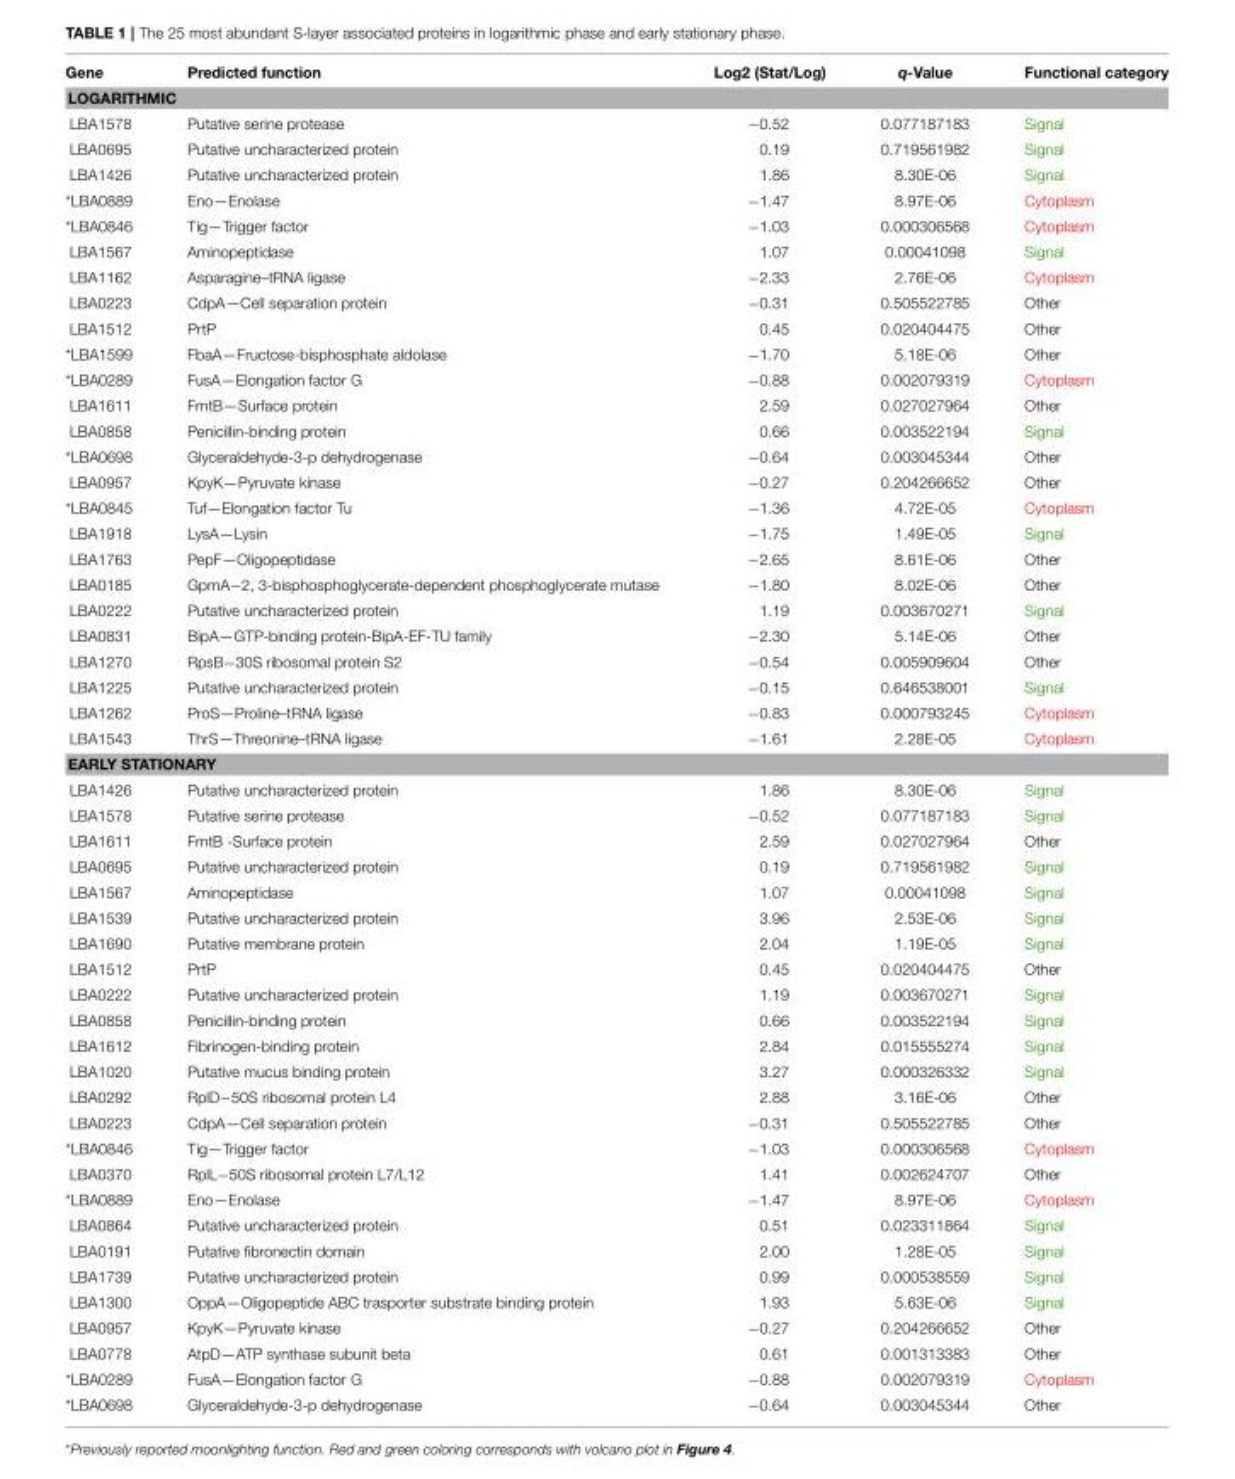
<table><thead><tr><td>Gene</td><td>Predicted function</td><td>Log2 (Stat/Log)</td><td>q-Value</td><td>Functional category</td></tr></thead><tbody><tr><td colspan="5">LOGARITHMIC</td></tr><tr><td>LBA1578</td><td>Putative serine protease</td><td>−0.52</td><td>0.077187183</td><td>Signal</td></tr><tr><td>LBA0695</td><td>Putative uncharacterized protein</td><td>0.19</td><td>0.719561982</td><td>Signal</td></tr><tr><td>LBA1426</td><td>Putative uncharacterized protein</td><td>1.86</td><td>8.30E-06</td><td>Signal</td></tr><tr><td>*LBA0889</td><td>Eno—Enolase</td><td>−1.47</td><td>8.97E-06</td><td>Cytoplasm</td></tr><tr><td>*LBA0846</td><td>Tig—Trigger factor</td><td>−1.03</td><td>0.000306568</td><td>Cytoplasm</td></tr><tr><td>LBA1567</td><td>Aminopeptidase</td><td>1.07</td><td>0.00041098</td><td>Signal</td></tr><tr><td>LBA1162</td><td>Asparagine–tRNA ligase</td><td>−2.33</td><td>2.76E-06</td><td>Cytoplasm</td></tr><tr><td>LBA0223</td><td>CdpA—Cell separation protein</td><td>−0.31</td><td>0.505522785</td><td>Other</td></tr><tr><td>LBA1512</td><td>PrtP</td><td>0.45</td><td>0.020404475</td><td>Other</td></tr><tr><td>*LBA1599</td><td>FbaA—Fructose-bisphosphate aldolase</td><td>−1.70</td><td>5.18E-06</td><td>Other</td></tr><tr><td>*LBA0289</td><td>FusA—Elongation factor G</td><td>−0.88</td><td>0.002079319</td><td>Cytoplasm</td></tr><tr><td>LBA1611</td><td>FmtB—Surface protein</td><td>2.59</td><td>0.027027964</td><td>Other</td></tr><tr><td>LBA0858</td><td>Penicillin-binding protein</td><td>0.66</td><td>0.003522194</td><td>Signal</td></tr><tr><td>*LBA0698</td><td>Glyceraldehyde-3-p dehydrogenase</td><td>−0.64</td><td>0.003045344</td><td>Other</td></tr><tr><td>LBA0957</td><td>KpyK—Pyruvate kinase</td><td>−0.27</td><td>0.204266652</td><td>Other</td></tr><tr><td>*LBA0845</td><td>Tuf—Elongation factor Tu</td><td>−1.36</td><td>4.72E-05</td><td>Cytoplasm</td></tr><tr><td>LBA1918</td><td>LysA—Lysin</td><td>−1.75</td><td>1.49E-05</td><td>Signal</td></tr><tr><td>LBA1763</td><td>PepF—Oligopeptidase</td><td>−2.65</td><td>8.61E-06</td><td>Other</td></tr><tr><td>LBA0185</td><td>GpmA−2, 3-bisphosphoglycerate-dependent phosphoglycerate mutase</td><td>−1.80</td><td>8.02E-06</td><td>Other</td></tr><tr><td>LBA0222</td><td>Putative uncharacterized protein</td><td>1.19</td><td>0.003670271</td><td>Signal</td></tr><tr><td>LBA0831</td><td>BipA—GTP-binding protein-BipA-EF-TU family</td><td>−2.30</td><td>5.14E-06</td><td>Other</td></tr><tr><td>LBA1270</td><td>RpsB−30S ribosomal protein S2</td><td>−0.54</td><td>0.005909604</td><td>Other</td></tr><tr><td>LBA1225</td><td>Putative uncharacterized protein</td><td>−0.15</td><td>0.646538001</td><td>Signal</td></tr><tr><td>LBA1262</td><td>ProS—Proline–tRNA ligase</td><td>−0.83</td><td>0.000793245</td><td>Cytoplasm</td></tr><tr><td>LBA1543</td><td>ThrS—Threonine–tRNA ligase</td><td>−1.61</td><td>2.28E-05</td><td>Cytoplasm</td></tr><tr><td colspan="5">EARLY STATIONARY</td></tr><tr><td>LBA1426</td><td>Putative uncharacterized protein</td><td>1.86</td><td>8.30E-06</td><td>Signal</td></tr><tr><td>LBA1578</td><td>Putative serine protease</td><td>−0.52</td><td>0.077187183</td><td>Signal</td></tr><tr><td>LBA1611</td><td>FmtB -Surface protein</td><td>2.59</td><td>0.027027964</td><td>Other</td></tr><tr><td>LBA0695</td><td>Putative uncharacterized protein</td><td>0.19</td><td>0.719561982</td><td>Signal</td></tr><tr><td>LBA1567</td><td>Aminopeptidase</td><td>1.07</td><td>0.00041098</td><td>Signal</td></tr><tr><td>LBA1539</td><td>Putative uncharacterized protein</td><td>3.96</td><td>2.53E-06</td><td>Signal</td></tr><tr><td>LBA1690</td><td>Putative membrane protein</td><td>2.04</td><td>1.19E-05</td><td>Signal</td></tr><tr><td>LBA1512</td><td>PrtP</td><td>0.45</td><td>0.020404475</td><td>Other</td></tr><tr><td>LBA0222</td><td>Putative uncharacterized protein</td><td>1.19</td><td>0.003670271</td><td>Signal</td></tr><tr><td>LBA0858</td><td>Penicillin-binding protein</td><td>0.66</td><td>0.003522194</td><td>Signal</td></tr><tr><td>LBA1612</td><td>Fibrinogen-binding protein</td><td>2.84</td><td>0.015555274</td><td>Signal</td></tr><tr><td>LBA1020</td><td>Putative mucus binding protein</td><td>3.27</td><td>0.000326332</td><td>Signal</td></tr><tr><td>LBA0292</td><td>RplD−50S ribosomal protein L4</td><td>2.88</td><td>3.16E-06</td><td>Other</td></tr><tr><td>LBA0223</td><td>CdpA—Cell separation protein</td><td>−0.31</td><td>0.505522785</td><td>Other</td></tr><tr><td>*LBA0846</td><td>Tig—Trigger factor</td><td>−1.03</td><td>0.000306568</td><td>Cytoplasm</td></tr><tr><td>LBA0370</td><td>RplL−50S ribosomal protein L7/L12</td><td>1.41</td><td>0.002624707</td><td>Other</td></tr><tr><td>*LBA0889</td><td>Eno—Enolase</td><td>−1.47</td><td>8.97E-06</td><td>Cytoplasm</td></tr><tr><td>LBA0864</td><td>Putative uncharacterized protein</td><td>0.51</td><td>0.023311864</td><td>Signal</td></tr><tr><td>LBA0191</td><td>Putative fibronectin domain</td><td>2.00</td><td>1.28E-05</td><td>Signal</td></tr><tr><td>LBA1739</td><td>Putative uncharacterized protein</td><td>0.99</td><td>0.000538559</td><td>Signal</td></tr><tr><td>LBA1300</td><td>OppA—Oligopeptide ABC trasporter substrate binding protein</td><td>1.93</td><td>5.63E-06</td><td>Signal</td></tr><tr><td>LBA0957</td><td>KpyK—Pyruvate kinase</td><td>−0.27</td><td>0.204266652</td><td>Other</td></tr><tr><td>LBA0778</td><td>AtpD—ATP synthase subunit beta</td><td>0.61</td><td>0.001313383</td><td>Other</td></tr><tr><td>*LBA0289</td><td>FusA—Elongation factor G</td><td>−0.88</td><td>0.002079319</td><td>Cytoplasm</td></tr><tr><td>*LBA0698</td><td>Glyceraldehyde-3-p dehydrogenase</td><td>−0.64</td><td>0.003045344</td><td>Other</td></tr></tbody></table>